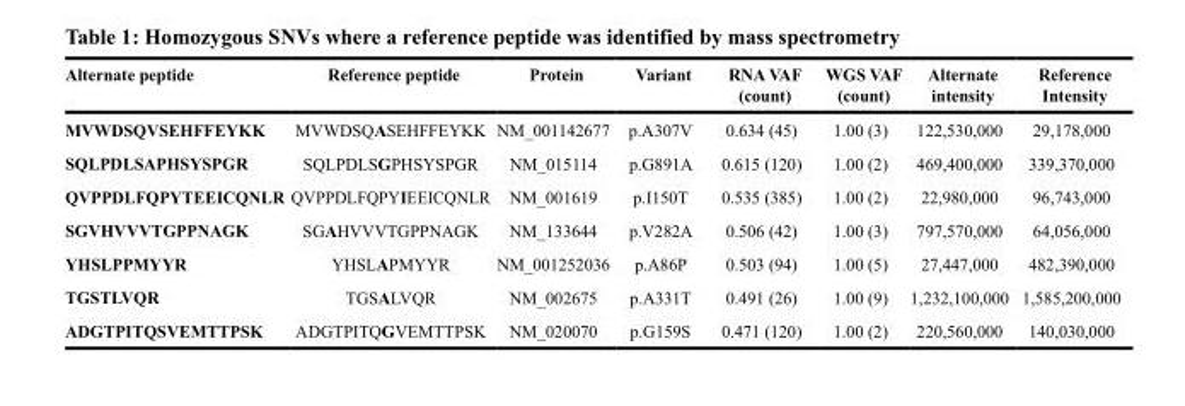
<table><thead><tr><td>Alternate peptide</td><td>Reference peptide</td><td>Protein</td><td>Variant</td><td>RNA VAF (count)</td><td>WGS VAF (count)</td><td>Alternate intensity</td><td>Reference Intensity</td></tr></thead><tbody><tr><td>MVWDSQVSEHFFEYKK</td><td>MVWDSQASEHFFEYKK</td><td>NM_001142677</td><td>p.A307V</td><td>0.634 (45)</td><td>1.00 (3)</td><td>122,530,000</td><td>29,178,000</td></tr><tr><td>SQLPDLSAPHSYSPGR</td><td>SQLPDLSGPHSYSPGR</td><td>NM_015114</td><td>p.G891A</td><td>0.615 (120)</td><td>1.00 (2)</td><td>469,400,000</td><td>339,370,000</td></tr><tr><td>QVPPDLFQPYTEEICQNLR</td><td>QVPPDLFQPYIEEICQNLR</td><td>NM_001619</td><td>p.I150T</td><td>0.535 (385)</td><td>1.00 (2)</td><td>22,980,000</td><td>96,743,000</td></tr><tr><td>SGVHVVVTGPPNAGK</td><td>SGAHVVVTGPPNAGK</td><td>NM_133644</td><td>p.V282A</td><td>0.506 (42)</td><td>1.00 (3)</td><td>797,570,000</td><td>64,056,000</td></tr><tr><td>YHSLPPMYYR</td><td>YHSLAPMYYR</td><td>NM_001252036</td><td>p.A86P</td><td>0.503 (94)</td><td>1.00 (5)</td><td>27,447,000</td><td>482,390,000</td></tr><tr><td>TGSTLVQR</td><td>TGSALVQR</td><td>NM_002675</td><td>p.A331T</td><td>0.491 (26)</td><td>1.00 (9)</td><td>1,232,100,000</td><td>1,585,200,000</td></tr><tr><td>ADGTPITQSVEMTTPSK</td><td>ADGTPITQGVEMTTPSK</td><td>NM_020070</td><td>p.G159S</td><td>0.471 (120)</td><td>1.00 (2)</td><td>220,560,000</td><td>140,030,000</td></tr></tbody></table>